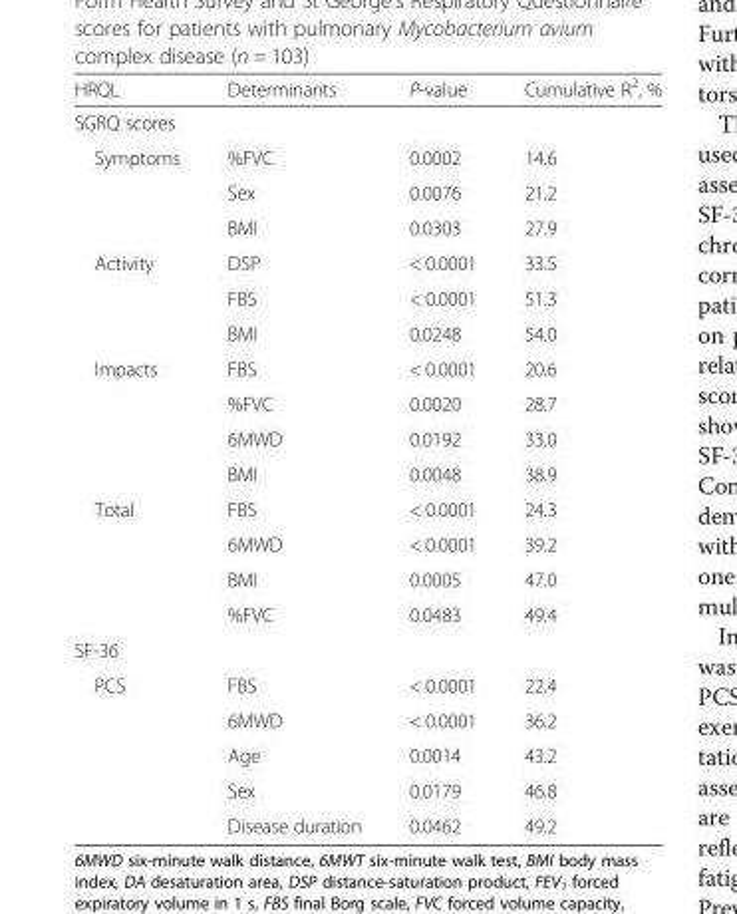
<table><thead><tr><td>HRQL</td><td>Determinants</td><td>P-value</td><td>Cumulative R<sup>2</sup>, %</td></tr></thead><tbody><tr><td colspan="4">SGRQ scores</td></tr><tr><td rowspan="3">Symptoms</td><td>%FVC</td><td>0.0002</td><td>14.6</td></tr><tr><td>Sex</td><td>0.0076</td><td>21.2</td></tr><tr><td>BMI</td><td>0.0303</td><td>27.9</td></tr><tr><td rowspan="3">Activity</td><td>DSP</td><td>&lt; 0.0001</td><td>33.5</td></tr><tr><td>FBS</td><td>&lt; 0.0001</td><td>51.3</td></tr><tr><td>BMI</td><td>0.0248</td><td>54.0</td></tr><tr><td rowspan="4">Impacts</td><td>FBS</td><td>&lt; 0.0001</td><td>20.6</td></tr><tr><td>%FVC</td><td>0.0020</td><td>28.7</td></tr><tr><td>6MWD</td><td>0.0192</td><td>33.0</td></tr><tr><td>BMI</td><td>0.0048</td><td>38.9</td></tr><tr><td rowspan="4">Total</td><td>FBS</td><td>&lt; 0.0001</td><td>24.3</td></tr><tr><td>6MWD</td><td>&lt; 0.0001</td><td>39.2</td></tr><tr><td>BMI</td><td>0.0005</td><td>47.0</td></tr><tr><td>%FVC</td><td>0.0483</td><td>49.4</td></tr><tr><td colspan="4">SF-36</td></tr><tr><td rowspan="5">PCS</td><td>FBS</td><td>&lt; 0.0001</td><td>22.4</td></tr><tr><td>6MWD</td><td>&lt; 0.0001</td><td>36.2</td></tr><tr><td>Age</td><td>0.0014</td><td>43.2</td></tr><tr><td>Sex</td><td>0.0179</td><td>46.8</td></tr><tr><td>Disease duration</td><td>0.0462</td><td>49.2</td></tr></tbody></table>